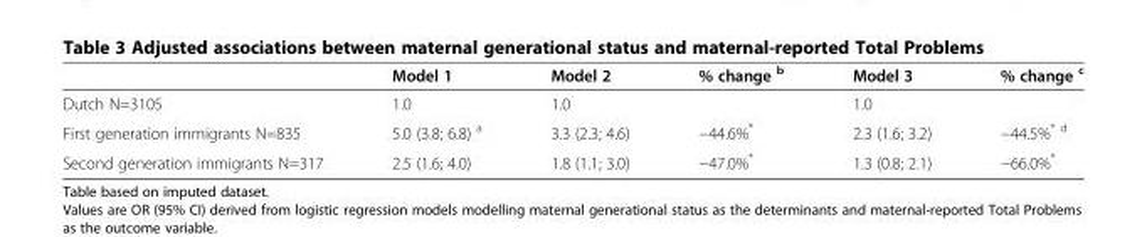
<table><thead><tr><td></td><td>Model 1</td><td>Model 2</td><td>% change <sup>b</sup></td><td>Model 3</td><td>% change <sup>c</sup></td></tr></thead><tbody><tr><td>Dutch N=3105</td><td>1.0</td><td>1.0</td><td></td><td>1.0</td><td></td></tr><tr><td>First generation immigrants N=835</td><td>5.0 (3.8; 6.8) <sup>a</sup></td><td>3.3 (2.3; 4.6)</td><td>−44.6%*</td><td>2.3 (1.6; 3.2)</td><td>−44.5%<sup>* d</sup></td></tr><tr><td>Second generation immigrants N=317</td><td>2.5 (1.6; 4.0)</td><td>1.8 (1.1; 3.0)</td><td>−47.0%*</td><td>1.3 (0.8; 2.1)</td><td>−66.0%*</td></tr></tbody></table>